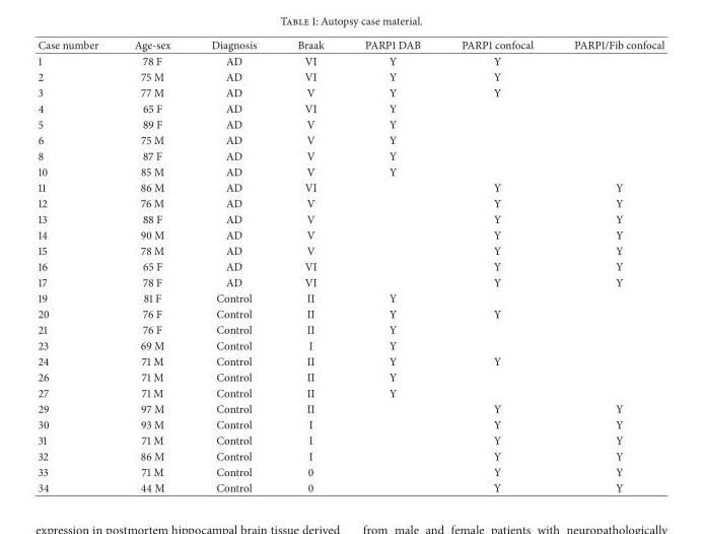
<table><thead><tr><td>Case number</td><td>Age-sex</td><td>Diagnosis</td><td>Braak</td><td>PARP1 DAB</td><td>PARP1 confocal</td><td>PARP1/Fib confocal</td></tr></thead><tbody><tr><td>1</td><td>78 F</td><td>AD</td><td>VI</td><td>Y</td><td>Y</td><td></td></tr><tr><td>2</td><td>75 M</td><td>AD</td><td>VI</td><td>Y</td><td>Y</td><td></td></tr><tr><td>3</td><td>77 M</td><td>AD</td><td>V</td><td>Y</td><td>Y</td><td></td></tr><tr><td>4</td><td>65 F</td><td>AD</td><td>VI</td><td>Y</td><td></td><td></td></tr><tr><td>5</td><td>89 F</td><td>AD</td><td>V</td><td>Y</td><td></td><td></td></tr><tr><td>6</td><td>75 M</td><td>AD</td><td>V</td><td>Y</td><td></td><td></td></tr><tr><td>8</td><td>87 F</td><td>AD</td><td>V</td><td>Y</td><td></td><td></td></tr><tr><td>10</td><td>85 M</td><td>AD</td><td>V</td><td>Y</td><td></td><td></td></tr><tr><td>11</td><td>86 M</td><td>AD</td><td>VI</td><td></td><td>Y</td><td>Y</td></tr><tr><td>12</td><td>76 M</td><td>AD</td><td>V</td><td></td><td>Y</td><td>Y</td></tr><tr><td>13</td><td>88 F</td><td>AD</td><td>V</td><td></td><td>Y</td><td>Y</td></tr><tr><td>14</td><td>90 M</td><td>AD</td><td>V</td><td></td><td>Y</td><td>Y</td></tr><tr><td>15</td><td>78 M</td><td>AD</td><td>V</td><td></td><td>Y</td><td>Y</td></tr><tr><td>16</td><td>65 F</td><td>AD</td><td>VI</td><td></td><td>Y</td><td>Y</td></tr><tr><td>17</td><td>78 F</td><td>AD</td><td>VI</td><td></td><td>Y</td><td>Y</td></tr><tr><td>19</td><td>81 F</td><td>Control</td><td>II</td><td>Y</td><td></td><td></td></tr><tr><td>20</td><td>76 F</td><td>Control</td><td>II</td><td>Y</td><td>Y</td><td></td></tr><tr><td>21</td><td>76 F</td><td>Control</td><td>II</td><td>Y</td><td></td><td></td></tr><tr><td>23</td><td>69 M</td><td>Control</td><td>I</td><td>Y</td><td></td><td></td></tr><tr><td>24</td><td>71 M</td><td>Control</td><td>II</td><td>Y</td><td>Y</td><td></td></tr><tr><td>26</td><td>71 M</td><td>Control</td><td>II</td><td>Y</td><td></td><td></td></tr><tr><td>27</td><td>71 M</td><td>Control</td><td>II</td><td>Y</td><td></td><td></td></tr><tr><td>29</td><td>97 M</td><td>Control</td><td>II</td><td></td><td>Y</td><td>Y</td></tr><tr><td>30</td><td>93 M</td><td>Control</td><td>I</td><td></td><td>Y</td><td>Y</td></tr><tr><td>31</td><td>71 M</td><td>Control</td><td>I</td><td></td><td>Y</td><td>Y</td></tr><tr><td>32</td><td>86 M</td><td>Control</td><td>I</td><td></td><td>Y</td><td>Y</td></tr><tr><td>33</td><td>71 M</td><td>Control</td><td>0</td><td></td><td>Y</td><td>Y</td></tr><tr><td>34</td><td>44 M</td><td>Control</td><td>0</td><td></td><td>Y</td><td>Y</td></tr></tbody></table>